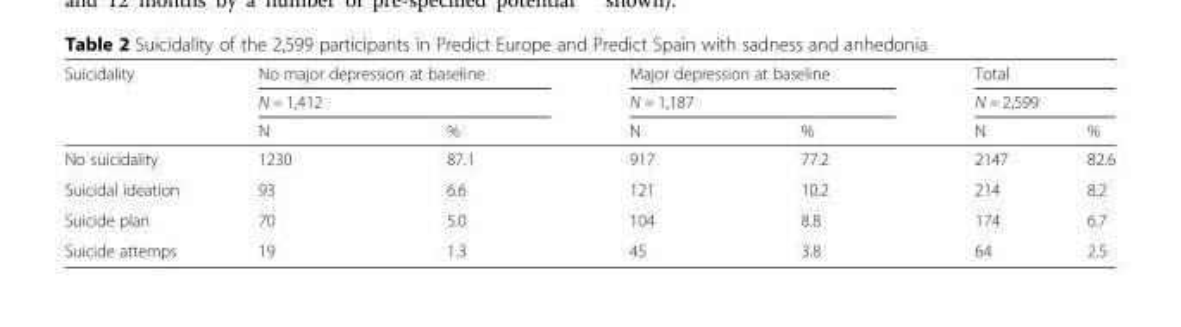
<table><thead><tr><td rowspan="3">Suicidality</td><td rowspan="2" colspan="2">No major depression at baseline N = 1,412</td><td rowspan="2" colspan="2">Major depression at baseline N = 1,187</td><td rowspan="2" colspan="2">Total N = 2,599</td></tr><tr></tr><tr><td>N</td><td>%</td><td>N</td><td>%</td><td>N</td><td>%</td></tr></thead><tbody><tr><td>No suicidality</td><td>1230</td><td>87.1</td><td>917</td><td>77.2</td><td>2147</td><td>82.6</td></tr><tr><td>Suicidal ideation</td><td>93</td><td>6.6</td><td>121</td><td>10.2</td><td>214</td><td>8.2</td></tr><tr><td>Suicide plan</td><td>70</td><td>5.0</td><td>104</td><td>8.8</td><td>174</td><td>6.7</td></tr><tr><td>Suicide attemps</td><td>19</td><td>1.3</td><td>45</td><td>3.8</td><td>64</td><td>2.5</td></tr></tbody></table>